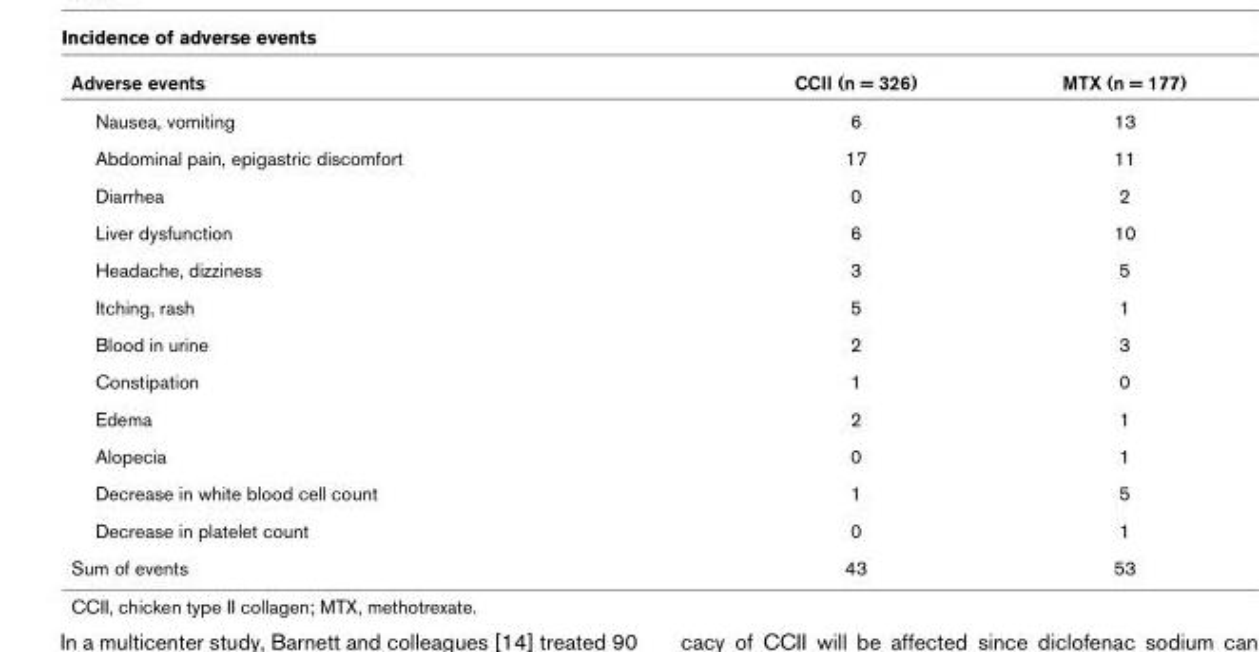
<table><thead><tr><td>Adverse events</td><td>CCII (n = 326)</td><td>MTX (n = 177)</td></tr></thead><tbody><tr><td>Nausea, vomiting</td><td>6</td><td>13</td></tr><tr><td>Abdominal pain, epigastric discomfort</td><td>17</td><td>11</td></tr><tr><td>Diarrhea</td><td>0</td><td>2</td></tr><tr><td>Liver dysfunction</td><td>6</td><td>10</td></tr><tr><td>Headache, dizziness</td><td>3</td><td>5</td></tr><tr><td>Itching, rash</td><td>5</td><td>1</td></tr><tr><td>Blood in urine</td><td>2</td><td>3</td></tr><tr><td>Constipation</td><td>1</td><td>0</td></tr><tr><td>Edema</td><td>2</td><td>1</td></tr><tr><td>Alopecia</td><td>0</td><td>1</td></tr><tr><td>Decrease in white blood cell count</td><td>1</td><td>5</td></tr><tr><td>Decrease in platelet count</td><td>0</td><td>1</td></tr><tr><td>Sum of events</td><td>43</td><td>53</td></tr></tbody></table>